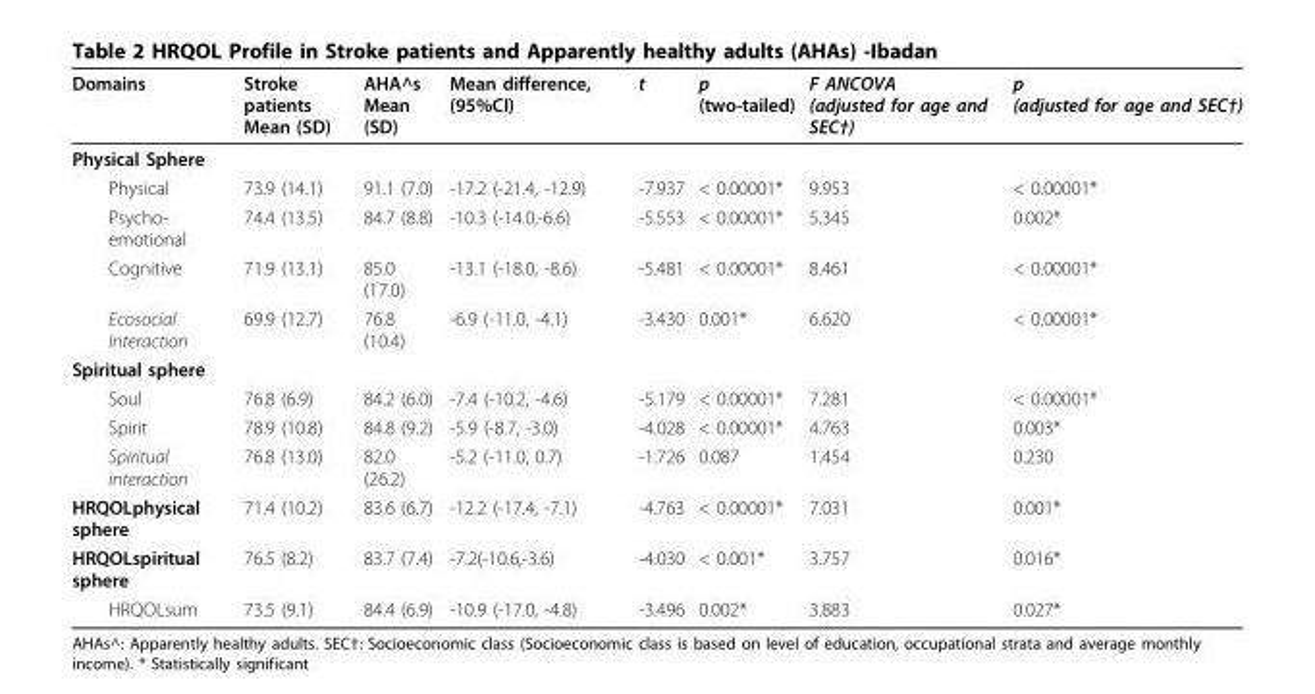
<table><thead><tr><td>Domains</td><td>Stroke patients Mean (SD)</td><td>AHA^s Mean (SD)</td><td>Mean difference, (95%CI)</td><td>t</td><td>p (two-tailed)</td><td>F ANCOVA (adjusted for age and SEC†)</td><td>p (adjusted for age and SEC†)</td></tr></thead><tbody><tr><td colspan="8">Physical Sphere</td></tr><tr><td>Physical</td><td>73.9 (14.1)</td><td>91.1 (7.0)</td><td>-17.2 (-21.4, -12.9)</td><td>-7.937</td><td>&lt; 0.00001*</td><td>9.953</td><td>&lt; 0.00001*</td></tr><tr><td>Psycho- emotional</td><td>74.4 (13.5)</td><td>84.7 (8.8)</td><td>-10.3 (-14.0,-6.6)</td><td>-5.553</td><td>&lt; 0.00001*</td><td>5.345</td><td>0.002*</td></tr><tr><td>Cognitive</td><td>71.9 (13.1)</td><td>85.0 (17.0)</td><td>-13.1 (-18.0, -8.6)</td><td>-5.481</td><td>&lt; 0.00001*</td><td>8.461</td><td>&lt; 0.00001*</td></tr><tr><td>Ecosocial Interaction</td><td>69.9 (12.7)</td><td>76.8 (10.4)</td><td>-6.9 (-11.0, -4.1)</td><td>-3.430</td><td>0.001*</td><td>6.620</td><td>&lt; 0.00001*</td></tr><tr><td colspan="8">Spiritual sphere</td></tr><tr><td>Soul</td><td>76.8 (6.9)</td><td>84.2 (6.0)</td><td>-7.4 (-10.2, -4.6)</td><td>-5.179</td><td>&lt; 0.00001*</td><td>7.281</td><td>&lt; 0.00001*</td></tr><tr><td>Spirit</td><td>78.9 (10.8)</td><td>84.8 (9.2)</td><td>-5.9 (-8.7, -3.0)</td><td>-4.028</td><td>&lt; 0.00001*</td><td>4.763</td><td>0.003*</td></tr><tr><td>Spiritual interaction</td><td>76.8 (13.0)</td><td>82.0 (26.2)</td><td>-5.2 (-11.0, 0.7)</td><td>-1.726</td><td>0.087</td><td>1.454</td><td>0.230</td></tr><tr><td>HRQOLphysical sphere</td><td>71.4 (10.2)</td><td>83.6 (6.7)</td><td>-12.2 (-17.4, -7.1)</td><td>-4.763</td><td>&lt; 0.00001*</td><td>7.031</td><td>0.001*</td></tr><tr><td>HRQOLspiritual sphere</td><td>76.5 (8.2)</td><td>83.7 (7.4)</td><td>-7.2(-10.6,-3.6)</td><td>-4.030</td><td>&lt; 0.001*</td><td>3.757</td><td>0.016*</td></tr><tr><td>HRQOLsum</td><td>73.5 (9.1)</td><td>84.4 (6.9)</td><td>-10.9 (-17.0, -4.8)</td><td>-3.496</td><td>0.002*</td><td>3.883</td><td>0.027*</td></tr></tbody></table>